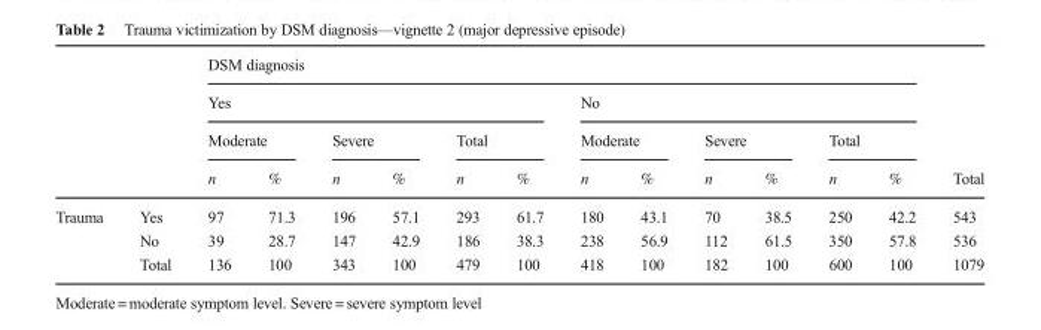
<table><thead><tr><td rowspan="4"></td><td rowspan="4"></td><td colspan="12">DSM diagnosis</td><td rowspan="4">Total</td></tr><tr><td colspan="6">Yes</td><td colspan="6">No</td></tr><tr><td colspan="2">Moderate</td><td colspan="2">Severe</td><td colspan="2">Total</td><td colspan="2">Moderate</td><td colspan="2">Severe</td><td colspan="2">Total</td></tr><tr><td>n</td><td>%</td><td>n</td><td>%</td><td>n</td><td>%</td><td>n</td><td>%</td><td>n</td><td>%</td><td>n</td><td>%</td></tr></thead><tbody><tr><td rowspan="3">Trauma</td><td>Yes</td><td>97</td><td>71.3</td><td>196</td><td>57.1</td><td>293</td><td>61.7</td><td>180</td><td>43.1</td><td>70</td><td>38.5</td><td>250</td><td>42.2</td><td>543</td></tr><tr><td>No</td><td>39</td><td>28.7</td><td>147</td><td>42.9</td><td>186</td><td>38.3</td><td>238</td><td>56.9</td><td>112</td><td>61.5</td><td>350</td><td>57.8</td><td>536</td></tr><tr><td>Total</td><td>136</td><td>100</td><td>343</td><td>100</td><td>479</td><td>100</td><td>418</td><td>100</td><td>182</td><td>100</td><td>600</td><td>100</td><td>1079</td></tr></tbody></table>